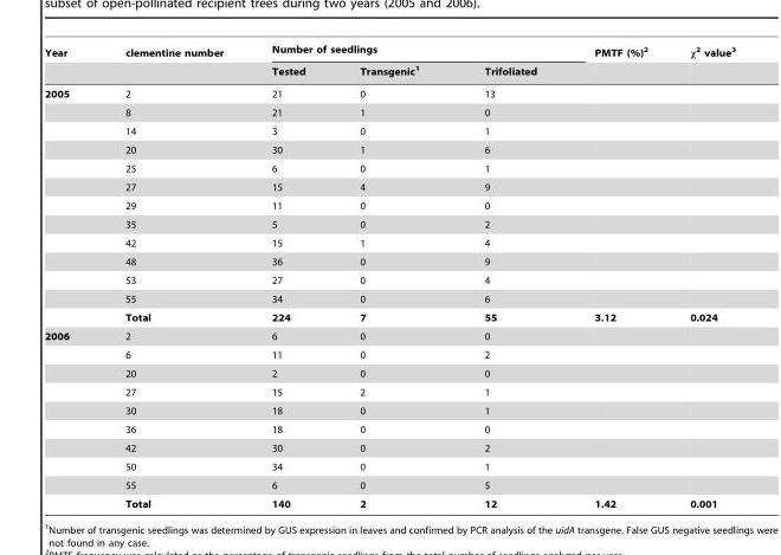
<table><thead><tr><td rowspan="2">Year</td><td rowspan="2">clementine number</td><td colspan="3">Number of seedlings</td><td rowspan="2">PMTF (%)<sup>2</sup></td><td rowspan="2">χ<sup>2</sup> value<sup>3</sup></td></tr><tr><td>Tested</td><td>Transgenic<sup>1</sup></td><td>Trifoliated</td></tr></thead><tbody><tr><td rowspan="13">2005</td><td>2</td><td>21</td><td>0</td><td>13</td><td></td><td></td></tr><tr><td>8</td><td>21</td><td>1</td><td>0</td><td></td><td></td></tr><tr><td>14</td><td>3</td><td>0</td><td>1</td><td></td><td></td></tr><tr><td>20</td><td>30</td><td>1</td><td>6</td><td></td><td></td></tr><tr><td>25</td><td>6</td><td>0</td><td>1</td><td></td><td></td></tr><tr><td>27</td><td>15</td><td>4</td><td>9</td><td></td><td></td></tr><tr><td>29</td><td>11</td><td>0</td><td>0</td><td></td><td></td></tr><tr><td>35</td><td>5</td><td>0</td><td>2</td><td></td><td></td></tr><tr><td>42</td><td>15</td><td>1</td><td>4</td><td></td><td></td></tr><tr><td>48</td><td>36</td><td>0</td><td>9</td><td></td><td></td></tr><tr><td>53</td><td>27</td><td>0</td><td>4</td><td></td><td></td></tr><tr><td>55</td><td>34</td><td>0</td><td>6</td><td></td><td></td></tr><tr><td>Total</td><td>224</td><td>7</td><td>55</td><td>3.12</td><td>0.024</td></tr><tr><td rowspan="10">2006</td><td>2</td><td>6</td><td>0</td><td>0</td><td></td><td></td></tr><tr><td>6</td><td>11</td><td>0</td><td>2</td><td></td><td></td></tr><tr><td>20</td><td>2</td><td>0</td><td>0</td><td></td><td></td></tr><tr><td>27</td><td>15</td><td>2</td><td>1</td><td></td><td></td></tr><tr><td>30</td><td>18</td><td>0</td><td>1</td><td></td><td></td></tr><tr><td>36</td><td>18</td><td>0</td><td>0</td><td></td><td></td></tr><tr><td>42</td><td>30</td><td>0</td><td>2</td><td></td><td></td></tr><tr><td>50</td><td>34</td><td>0</td><td>1</td><td></td><td></td></tr><tr><td>55</td><td>6</td><td>0</td><td>5</td><td></td><td></td></tr><tr><td>Total</td><td>140</td><td>2</td><td>12</td><td>1.42</td><td>0.001</td></tr></tbody></table>